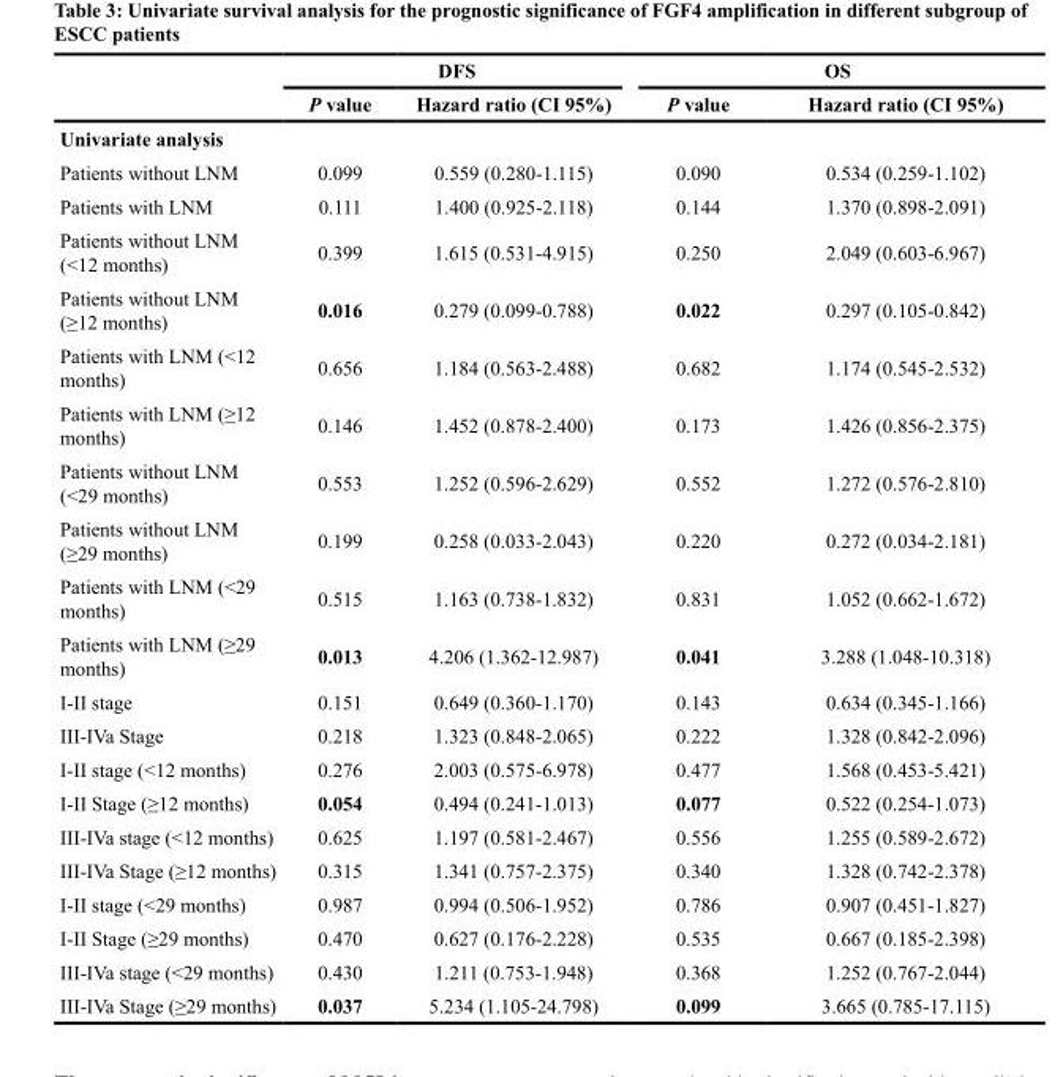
<table><thead><tr><td rowspan="2"></td><td colspan="2">DFS</td><td colspan="2">OS</td></tr><tr><td>P value</td><td>Hazard ratio (CI 95%)</td><td>P value</td><td>Hazard ratio (CI 95%)</td></tr></thead><tbody><tr><td colspan="5">Univariate analysis</td></tr><tr><td>Patients without LNM</td><td>0.099</td><td>0.559 (0.280-1.115)</td><td>0.090</td><td>0.534 (0.259-1.102)</td></tr><tr><td>Patients with LNM</td><td>0.111</td><td>1.400 (0.925-2.118)</td><td>0.144</td><td>1.370 (0.898-2.091)</td></tr><tr><td>Patients without LNM (&lt;12 months)</td><td>0.399</td><td>1.615 (0.531-4.915)</td><td>0.250</td><td>2.049 (0.603-6.967)</td></tr><tr><td>Patients without LNM (≥12 months)</td><td>0.016</td><td>0.279 (0.099-0.788)</td><td>0.022</td><td>0.297 (0.105-0.842)</td></tr><tr><td>Patients with LNM (&lt;12 months)</td><td>0.656</td><td>1.184 (0.563-2.488)</td><td>0.682</td><td>1.174 (0.545-2.532)</td></tr><tr><td>Patients with LNM (≥12 months)</td><td>0.146</td><td>1.452 (0.878-2.400)</td><td>0.173</td><td>1.426 (0.856-2.375)</td></tr><tr><td>Patients without LNM (&lt;29 months)</td><td>0.553</td><td>1.252 (0.596-2.629)</td><td>0.552</td><td>1.272 (0.576-2.810)</td></tr><tr><td>Patients without LNM (≥29 months)</td><td>0.199</td><td>0.258 (0.033-2.043)</td><td>0.220</td><td>0.272 (0.034-2.181)</td></tr><tr><td>Patients with LNM (&lt;29 months)</td><td>0.515</td><td>1.163 (0.738-1.832)</td><td>0.831</td><td>1.052 (0.662-1.672)</td></tr><tr><td>Patients with LNM (≥29 months)</td><td>0.013</td><td>4.206 (1.362-12.987)</td><td>0.041</td><td>3.288 (1.048-10.318)</td></tr><tr><td>I-II stage</td><td>0.151</td><td>0.649 (0.360-1.170)</td><td>0.143</td><td>0.634 (0.345-1.166)</td></tr><tr><td>III-IVa Stage</td><td>0.218</td><td>1.323 (0.848-2.065)</td><td>0.222</td><td>1.328 (0.842-2.096)</td></tr><tr><td>I-II stage (&lt;12 months)</td><td>0.276</td><td>2.003 (0.575-6.978)</td><td>0.477</td><td>1.568 (0.453-5.421)</td></tr><tr><td>I-II Stage (≥12 months)</td><td>0.054</td><td>0.494 (0.241-1.013)</td><td>0.077</td><td>0.522 (0.254-1.073)</td></tr><tr><td>III-IVa stage (&lt;12 months)</td><td>0.625</td><td>1.197 (0.581-2.467)</td><td>0.556</td><td>1.255 (0.589-2.672)</td></tr><tr><td>III-IVa Stage (≥12 months)</td><td>0.315</td><td>1.341 (0.757-2.375)</td><td>0.340</td><td>1.328 (0.742-2.378)</td></tr><tr><td>I-II stage (&lt;29 months)</td><td>0.987</td><td>0.994 (0.506-1.952)</td><td>0.786</td><td>0.907 (0.451-1.827)</td></tr><tr><td>I-II Stage (≥29 months)</td><td>0.470</td><td>0.627 (0.176-2.228)</td><td>0.535</td><td>0.667 (0.185-2.398)</td></tr><tr><td>III-IVa stage (&lt;29 months)</td><td>0.430</td><td>1.211 (0.753-1.948)</td><td>0.368</td><td>1.252 (0.767-2.044)</td></tr><tr><td>III-IVa Stage (≥29 months)</td><td>0.037</td><td>5.234 (1.105-24.798)</td><td>0.099</td><td>3.665 (0.785-17.115)</td></tr></tbody></table>